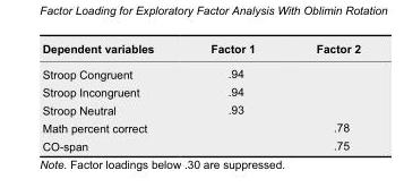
<table><thead><tr><td>Dependent variables</td><td>Factor 1</td><td>Factor 2</td></tr></thead><tbody><tr><td>Stroop Congruent</td><td>.94</td><td></td></tr><tr><td>Stroop Incongruent</td><td>.94</td><td></td></tr><tr><td>Stroop Neutral</td><td>.93</td><td></td></tr><tr><td>Math percent correct</td><td></td><td>.78</td></tr><tr><td>CO-span</td><td></td><td>.75</td></tr></tbody></table>